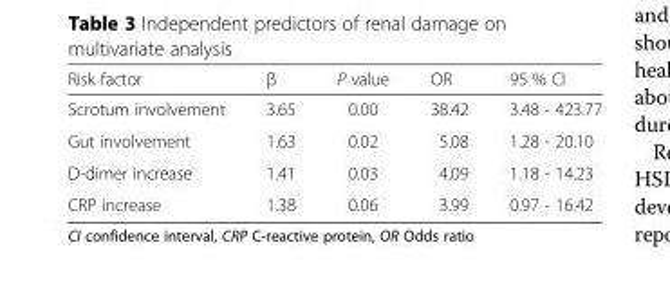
<table><thead><tr><td>Risk factor</td><td>β</td><td>P value</td><td>OR</td><td>95 % CI</td></tr></thead><tbody><tr><td>Scrotum involvement</td><td>3.65</td><td>0.00</td><td>38.42</td><td>3.48 - 423.77</td></tr><tr><td>Gut involvement</td><td>1.63</td><td>0.02</td><td>5.08</td><td>1.28 - 20.10</td></tr><tr><td>D-dimer increase</td><td>1.41</td><td>0.03</td><td>4.09</td><td>1.18 - 14.23</td></tr><tr><td>CRP increase</td><td>1.38</td><td>0.06</td><td>3.99</td><td>0.97 - 16.42</td></tr></tbody></table>